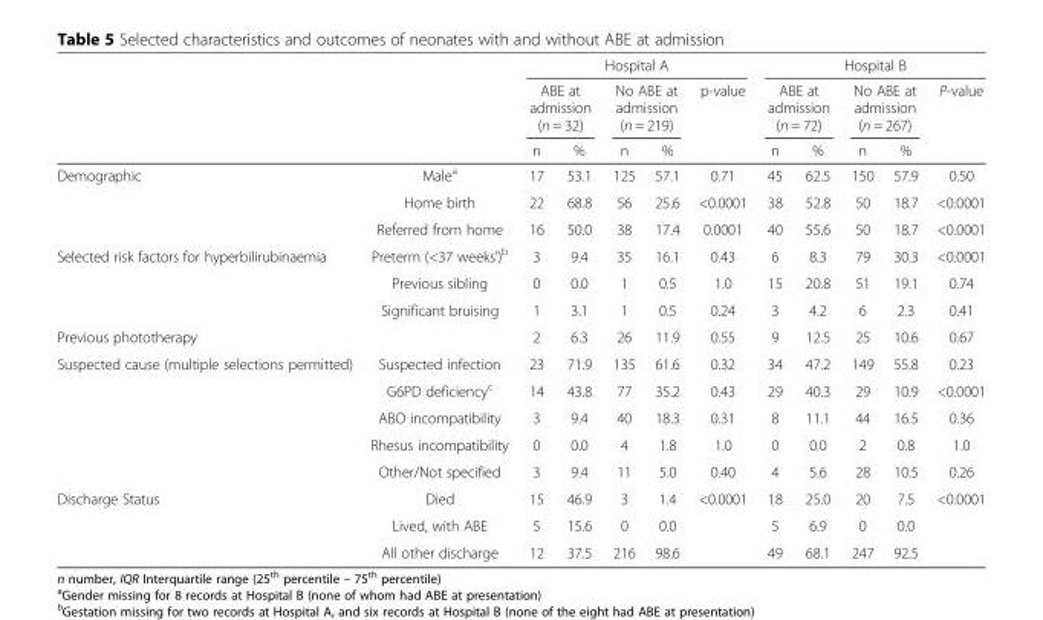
<table><thead><tr><td rowspan="3"></td><td rowspan="3"></td><td colspan="5">Hospital A</td><td colspan="5">Hospital B</td></tr><tr><td colspan="2">ABE at admission (n = 32)</td><td colspan="2">No ABE at admission (n = 219)</td><td rowspan="2">p-value</td><td colspan="2">ABE at admission (n = 72)</td><td colspan="2">No ABE at admission (n = 267)</td><td rowspan="2">P-value</td></tr><tr><td>n</td><td>%</td><td>n</td><td>%</td><td>n</td><td>%</td><td>n</td><td>%</td></tr></thead><tbody><tr><td rowspan="3">Demographic</td><td>Male<sup>a</sup></td><td>17</td><td>53.1</td><td>125</td><td>57.1</td><td>0.71</td><td>45</td><td>62.5</td><td>150</td><td>57.9</td><td>0.50</td></tr><tr><td>Home birth</td><td>22</td><td>68.8</td><td>56</td><td>25.6</td><td>&lt;0.0001</td><td>38</td><td>52.8</td><td>50</td><td>18.7</td><td>&lt;0.0001</td></tr><tr><td>Referred from home</td><td>16</td><td>50.0</td><td>38</td><td>17.4</td><td>0.0001</td><td>40</td><td>55.6</td><td>50</td><td>18.7</td><td>&lt;0.0001</td></tr><tr><td rowspan="3">Selected risk factors for hyperbilirubinaemia</td><td>Preterm (&lt;37 weeks’)<sup>b</sup></td><td>3</td><td>9.4</td><td>35</td><td>16.1</td><td>0.43</td><td>6</td><td>8.3</td><td>79</td><td>30.3</td><td>&lt;0.0001</td></tr><tr><td>Previous sibling</td><td>0</td><td>0.0</td><td>1</td><td>0.5</td><td>1.0</td><td>15</td><td>20.8</td><td>51</td><td>19.1</td><td>0.74</td></tr><tr><td>Significant bruising</td><td>1</td><td>3.1</td><td>1</td><td>0.5</td><td>0.24</td><td>3</td><td>4.2</td><td>6</td><td>2.3</td><td>0.41</td></tr><tr><td colspan="2">Previous phototherapy</td><td>2</td><td>6.3</td><td>26</td><td>11.9</td><td>0.55</td><td>9</td><td>12.5</td><td>25</td><td>10.6</td><td>0.67</td></tr><tr><td rowspan="5">Suspected cause (multiple selections permitted)</td><td>Suspected infection</td><td>23</td><td>71.9</td><td>135</td><td>61.6</td><td>0.32</td><td>34</td><td>47.2</td><td>149</td><td>55.8</td><td>0.23</td></tr><tr><td>G6PD deficiency<sup>c</sup></td><td>14</td><td>43.8</td><td>77</td><td>35.2</td><td>0.43</td><td>29</td><td>40.3</td><td>29</td><td>10.9</td><td>&lt;0.0001</td></tr><tr><td>ABO incompatibility</td><td>3</td><td>9.4</td><td>40</td><td>18.3</td><td>0.31</td><td>8</td><td>11.1</td><td>44</td><td>16.5</td><td>0.36</td></tr><tr><td>Rhesus incompatibility</td><td>0</td><td>0.0</td><td>4</td><td>1.8</td><td>1.0</td><td>0</td><td>0.0</td><td>2</td><td>0.8</td><td>1.0</td></tr><tr><td>Other/Not specified</td><td>3</td><td>9.4</td><td>11</td><td>5.0</td><td>0.40</td><td>4</td><td>5.6</td><td>28</td><td>10.5</td><td>0.26</td></tr><tr><td rowspan="3">Discharge Status</td><td>Died</td><td>15</td><td>46.9</td><td>3</td><td>1.4</td><td rowspan="3">&lt;0.0001</td><td>18</td><td>25.0</td><td>20</td><td>7.5</td><td rowspan="3">&lt;0.0001</td></tr><tr><td>Lived, with ABE</td><td>5</td><td>15.6</td><td>0</td><td>0.0</td><td>5</td><td>6.9</td><td>0</td><td>0.0</td></tr><tr><td>All other discharge</td><td>12</td><td>37.5</td><td>216</td><td>98.6</td><td>49</td><td>68.1</td><td>247</td><td>92.5</td></tr></tbody></table>